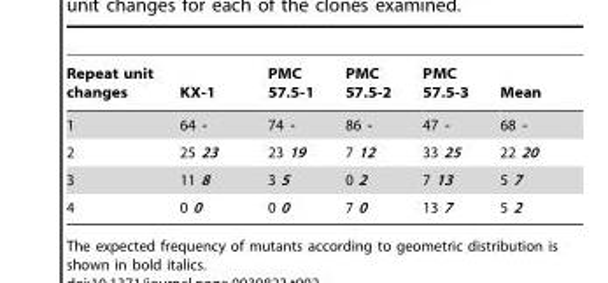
<table><thead><tr><td>Repeat unit changes</td><td>KX-1</td><td>PMC 57.5-1</td><td>PMC 57.5-2</td><td>PMC 57.5-3</td><td>Mean</td></tr></thead><tbody><tr><td>1</td><td>64 -</td><td>74 -</td><td>86 -</td><td>47 -</td><td>68 -</td></tr><tr><td>2</td><td>25 23</td><td>23 19</td><td>7 12</td><td>33 25</td><td>22 20</td></tr><tr><td>3</td><td>11 8</td><td>3 5</td><td>0 2</td><td>7 13</td><td>5 7</td></tr><tr><td>4</td><td>0 0</td><td>0 0</td><td>7 0</td><td>13 7</td><td>5 2</td></tr></tbody></table>